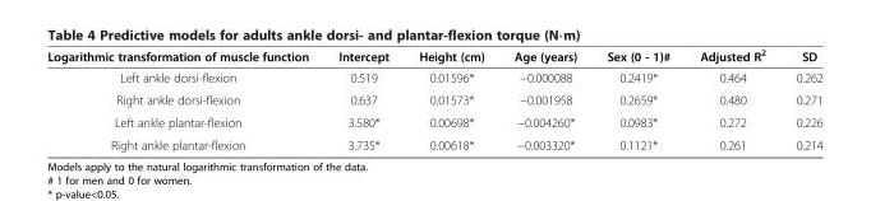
<table><thead><tr><td>Logarithmic transformation of muscle function</td><td>Intercept</td><td>Height (cm)</td><td>Age (years)</td><td>Sex (0 - 1)#</td><td>Adjusted R<sup>2</sup></td><td>SD</td></tr></thead><tbody><tr><td>Left ankle dorsi-flexion</td><td>0.519</td><td>0.01596*</td><td>−0.000088</td><td>0.2419*</td><td>0.464</td><td>0.262</td></tr><tr><td>Right ankle dorsi-flexion</td><td>0.637</td><td>0.01573*</td><td>−0.001958</td><td>0.2659*</td><td>0.480</td><td>0.271</td></tr><tr><td>Left ankle plantar-flexion</td><td>3.580*</td><td>0.00698*</td><td>−0.004260*</td><td>0.0983*</td><td>0.272</td><td>0.226</td></tr><tr><td>Right ankle plantar-flexion</td><td>3.735*</td><td>0.00618*</td><td>−0.003320*</td><td>0.1121*</td><td>0.261</td><td>0.214</td></tr></tbody></table>